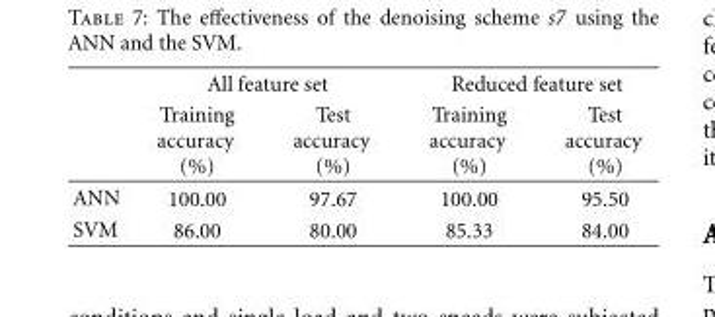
<table><thead><tr><td rowspan="2"></td><td colspan="2">All feature set</td><td colspan="2">Reduced feature set</td></tr><tr><td>Training accuracy (%)</td><td>Test accuracy (%)</td><td>Training accuracy (%)</td><td>Test accuracy (%)</td></tr></thead><tbody><tr><td>ANN</td><td>100.00</td><td>97.67</td><td>100.00</td><td>95.50</td></tr><tr><td>SVM</td><td>86.00</td><td>80.00</td><td>85.33</td><td>84.00</td></tr></tbody></table>